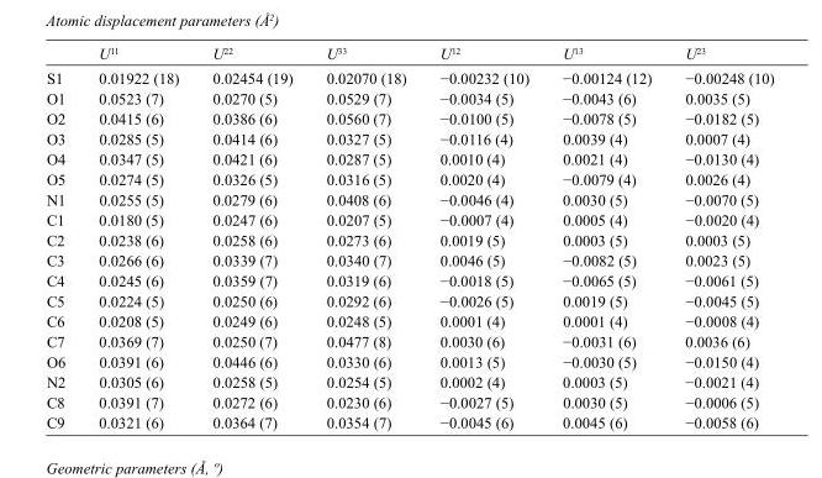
<table><thead><tr><td></td><td>U<sup>11</sup></td><td>U<sup>22</sup></td><td>U<sup>33</sup></td><td>U<sup>12</sup></td><td>U<sup>13</sup></td><td>U<sup>23</sup></td></tr></thead><tbody><tr><td>S1</td><td>0.01922 (18)</td><td>0.02454 (19)</td><td>0.02070 (18)</td><td>−0.00232 (10)</td><td>−0.00124 (12)</td><td>−0.00248 (10)</td></tr><tr><td>O1</td><td>0.0523 (7)</td><td>0.0270 (5)</td><td>0.0529 (7)</td><td>−0.0034 (5)</td><td>−0.0043 (6)</td><td>0.0035 (5)</td></tr><tr><td>O2</td><td>0.0415 (6)</td><td>0.0386 (6)</td><td>0.0560 (7)</td><td>−0.0100 (5)</td><td>−0.0078 (5)</td><td>−0.0182 (5)</td></tr><tr><td>O3</td><td>0.0285 (5)</td><td>0.0414 (6)</td><td>0.0327 (5)</td><td>−0.0116 (4)</td><td>0.0039 (4)</td><td>0.0007 (4)</td></tr><tr><td>O4</td><td>0.0347 (5)</td><td>0.0421 (6)</td><td>0.0287 (5)</td><td>0.0010 (4)</td><td>0.0021 (4)</td><td>−0.0130 (4)</td></tr><tr><td>O5</td><td>0.0274 (5)</td><td>0.0326 (5)</td><td>0.0316 (5)</td><td>0.0020 (4)</td><td>−0.0079 (4)</td><td>0.0026 (4)</td></tr><tr><td>N1</td><td>0.0255 (5)</td><td>0.0279 (6)</td><td>0.0408 (6)</td><td>−0.0046 (4)</td><td>0.0030 (5)</td><td>−0.0070 (5)</td></tr><tr><td>C1</td><td>0.0180 (5)</td><td>0.0247 (6)</td><td>0.0207 (5)</td><td>−0.0007 (4)</td><td>0.0005 (4)</td><td>−0.0020 (4)</td></tr><tr><td>C2</td><td>0.0238 (6)</td><td>0.0258 (6)</td><td>0.0273 (6)</td><td>0.0019 (5)</td><td>0.0003 (5)</td><td>0.0003 (5)</td></tr><tr><td>C3</td><td>0.0266 (6)</td><td>0.0339 (7)</td><td>0.0340 (7)</td><td>0.0046 (5)</td><td>−0.0082 (5)</td><td>0.0023 (5)</td></tr><tr><td>C4</td><td>0.0245 (6)</td><td>0.0359 (7)</td><td>0.0319 (6)</td><td>−0.0018 (5)</td><td>−0.0065 (5)</td><td>−0.0061 (5)</td></tr><tr><td>C5</td><td>0.0224 (5)</td><td>0.0250 (6)</td><td>0.0292 (6)</td><td>−0.0026 (5)</td><td>0.0019 (5)</td><td>−0.0045 (5)</td></tr><tr><td>C6</td><td>0.0208 (5)</td><td>0.0249 (6)</td><td>0.0248 (5)</td><td>0.0001 (4)</td><td>0.0001 (4)</td><td>−0.0008 (4)</td></tr><tr><td>C7</td><td>0.0369 (7)</td><td>0.0250 (7)</td><td>0.0477 (8)</td><td>0.0030 (6)</td><td>−0.0031 (6)</td><td>0.0036 (6)</td></tr><tr><td>O6</td><td>0.0391 (6)</td><td>0.0446 (6)</td><td>0.0330 (6)</td><td>0.0013 (5)</td><td>−0.0030 (5)</td><td>−0.0150 (4)</td></tr><tr><td>N2</td><td>0.0305 (6)</td><td>0.0258 (5)</td><td>0.0254 (5)</td><td>0.0002 (4)</td><td>0.0003 (5)</td><td>−0.0021 (4)</td></tr><tr><td>C8</td><td>0.0391 (7)</td><td>0.0272 (6)</td><td>0.0230 (6)</td><td>−0.0027 (5)</td><td>0.0030 (5)</td><td>−0.0006 (5)</td></tr><tr><td>C9</td><td>0.0321 (6)</td><td>0.0364 (7)</td><td>0.0354 (7)</td><td>−0.0045 (6)</td><td>0.0045 (6)</td><td>−0.0058 (6)</td></tr></tbody></table>